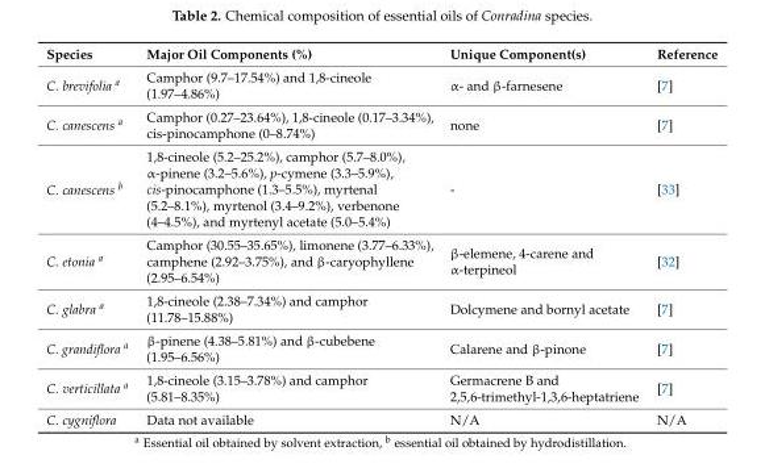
<table><thead><tr><td>Species</td><td>Major Oil Components (%)</td><td>Unique Component(s)</td><td>Reference</td></tr></thead><tbody><tr><td>C. brevifolia <sup>a</sup></td><td>Camphor (9.7–17.54%) and 1,8-cineole (1.97–4.86%)</td><td>α- and β-farnesene</td><td>[7]</td></tr><tr><td>C. canescens <sup>a</sup></td><td>Camphor (0.27–23.64%), 1,8-cineole (0.17–3.34%), cis-pinocamphone (0–8.74%)</td><td>none</td><td>[7]</td></tr><tr><td>C. canescens <sup>b</sup></td><td>1,8-cineole (5.2–25.2%), camphor (5.7–8.0%), α-pinene (3.2–5.6%), p-cymene (3.3–5.9%), cis-pinocamphone (1.3–5.5%), myrtenal (5.2–8.1%), myrtenol (3.4–9.2%), verbenone (4–4.5%), and myrtenyl acetate (5.0–5.4%)</td><td>-</td><td>[33]</td></tr><tr><td>C. etonia <sup>a</sup></td><td>Camphor (30.55–35.65%), limonene (3.77–6.33%), camphene (2.92–3.75%), and β-caryophyllene (2.95–6.54%)</td><td>β-elemene, 4-carene and α-terpineol</td><td>[32]</td></tr><tr><td>C. glabra <sup>a</sup></td><td>1,8-cineole (2.38–7.34%) and camphor (11.78–15.88%)</td><td>Dolcymene and bornyl acetate</td><td>[7]</td></tr><tr><td>C. grandiflora <sup>a</sup></td><td>β-pinene (4.38–5.81%) and β-cubebene (1.95–6.56%)</td><td>Calarene and β-pinone</td><td>[7]</td></tr><tr><td>C. verticillata <sup>a</sup></td><td>1,8-cineole (3.15–3.78%) and camphor (5.81–8.35%)</td><td>Germacrene B and 2,5,6-trimethyl-1,3,6-heptatriene</td><td>[7]</td></tr><tr><td>C. cygniflora</td><td>Data not available</td><td>N/A</td><td>N/A</td></tr></tbody></table>